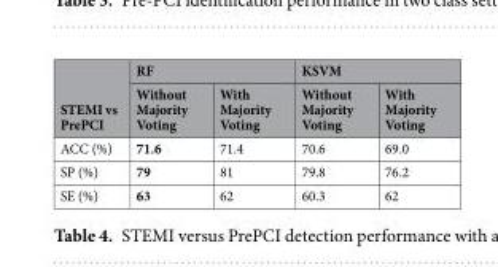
<table><thead><tr><td rowspan="2">STEMI vs PrePCI</td><td colspan="2">RF</td><td colspan="2">KSVM</td></tr><tr><td>Without Majority Voting</td><td>With Majority Voting</td><td>Without Majority Voting</td><td>With Majority Voting</td></tr></thead><tbody><tr><td>ACC (%)</td><td>71.6</td><td>71.4</td><td>70.6</td><td>69.0</td></tr><tr><td>SP (%)</td><td>79</td><td>81</td><td>79.8</td><td>76.2</td></tr><tr><td>SE (%)</td><td>63</td><td>62</td><td>60.3</td><td>62</td></tr></tbody></table>